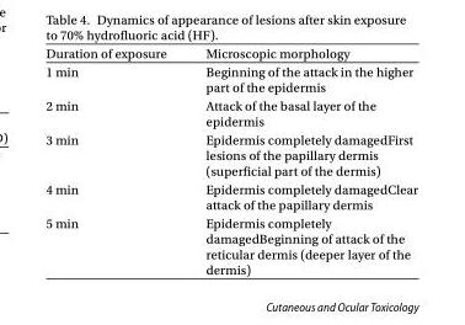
<table><thead><tr><td>Duration of exposure</td><td>Microscopic morphology</td></tr></thead><tbody><tr><td>1 min</td><td>Beginning of the attack in the higher part of the epidermis</td></tr><tr><td>2 min</td><td>Attack of the basal layer of the epidermis</td></tr><tr><td>3 min</td><td>Epidermis completely damagedFirst lesions of the papillary dermis (superficial part of the dermis)</td></tr><tr><td>4 min</td><td>Epidermis completely damagedClear attack of the papillary dermis</td></tr><tr><td>5 min</td><td>Epidermis completely damagedBeginning of attack of the reticular dermis (deeper layer of the dermis)</td></tr></tbody></table>